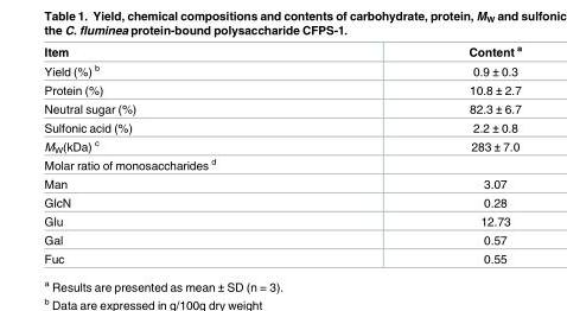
<table><thead><tr><td>Item</td><td>Content <sup>a</sup></td></tr></thead><tbody><tr><td>Yield (%) <sup>b</sup></td><td>0.9 ± 0.3</td></tr><tr><td>Protein (%)</td><td>10.8 ± 2.7</td></tr><tr><td>Neutral sugar (%)</td><td>82.3 ± 6.7</td></tr><tr><td>Sulfonic acid (%)</td><td>2.2 ± 0.8</td></tr><tr><td>M<sub>W</sub>(kDa) <sup>c</sup></td><td>283 ± 7.0</td></tr><tr><td colspan="2">Molar ratio of monosaccharides <sup>d</sup></td></tr><tr><td>Man</td><td>3.07</td></tr><tr><td>GlcN</td><td>0.28</td></tr><tr><td>Glu</td><td>12.73</td></tr><tr><td>Gal</td><td>0.57</td></tr><tr><td>Fuc</td><td>0.55</td></tr></tbody></table>